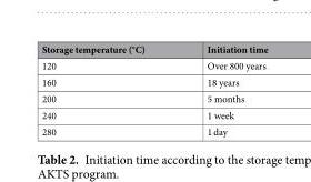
<table><thead><tr><td>Storage temperature (°C)</td><td>Initiation time</td></tr></thead><tbody><tr><td>120</td><td>Over 800 years</td></tr><tr><td>160</td><td>18 years</td></tr><tr><td>200</td><td>5 months</td></tr><tr><td>240</td><td>1 week</td></tr><tr><td>280</td><td>1 day</td></tr></tbody></table>